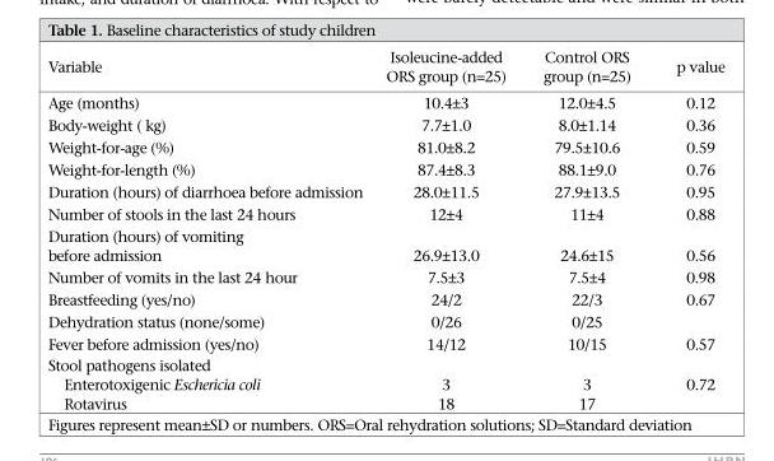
<table><thead><tr><td>Variable</td><td>Isoleucine-added ORS group (n=25)</td><td>Control ORS group (n=25)</td><td>p value</td></tr></thead><tbody><tr><td>Age (months)</td><td>10.4±3</td><td>12.0±4.5</td><td>0.12</td></tr><tr><td>Body-weight ( kg)</td><td>7.7±1.0</td><td>8.0±1.14</td><td>0.36</td></tr><tr><td>Weight-for-age (%)</td><td>81.0±8.2</td><td>79.5±10.6</td><td>0.59</td></tr><tr><td>Weight-for-length (%)</td><td>87.4±8.3</td><td>88.1±9.0</td><td>0.76</td></tr><tr><td>Duration (hours) of diarrhoea before admission</td><td>28.0±11.5</td><td>27.9±13.5</td><td>0.95</td></tr><tr><td>Number of stools in the last 24 hours</td><td>12±4</td><td>11±4</td><td>0.88</td></tr><tr><td>Duration (hours) of vomiting before admission</td><td>26.9±13.0</td><td>24.6±15</td><td>0.56</td></tr><tr><td>Number of vomits in the last 24 hour</td><td>7.5±3</td><td>7.5±4</td><td>0.98</td></tr><tr><td>Breastfeeding (yes/no)</td><td>24/2</td><td>22/3</td><td>0.67</td></tr><tr><td>Dehydration status (none/some)</td><td>0/26</td><td>0/25</td><td></td></tr><tr><td>Fever before admission (yes/no)</td><td>14/12</td><td>10/15</td><td>0.57</td></tr><tr><td colspan="4">Stool pathogens isolated</td></tr><tr><td>Enterotoxigenic Eschericia coli</td><td>3</td><td>3</td><td>0.72</td></tr><tr><td>Rotavirus</td><td>18</td><td>17</td><td></td></tr></tbody></table>